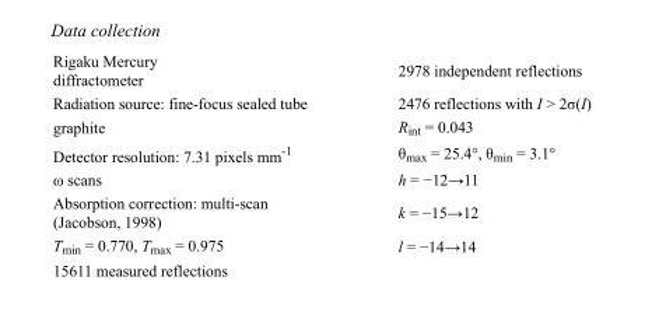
<table><tbody><tr><td>Rigaku Mercury diffractometer</td><td>2978 independent reflections</td></tr><tr><td>Radiation source: fine-focus sealed tube</td><td>2476 reflections with I &gt; 2σ(I)</td></tr><tr><td>graphite</td><td>R<sub>int</sub> = 0.043</td></tr><tr><td>Detector resolution: 7.31 pixels mm<sup>-1</sup></td><td>θ<sub>max</sub> = 25.4°, θ<sub>min</sub> = 3.1°</td></tr><tr><td>ω scans</td><td>h = −12→11</td></tr><tr><td>Absorption correction: multi-scan (Jacobson, 1998)</td><td>k = −15→12</td></tr><tr><td>T<sub>min</sub> = 0.770, T<sub>max</sub> = 0.975</td><td>l = −14→14</td></tr><tr><td>15611 measured reflections</td><td></td></tr></tbody></table>